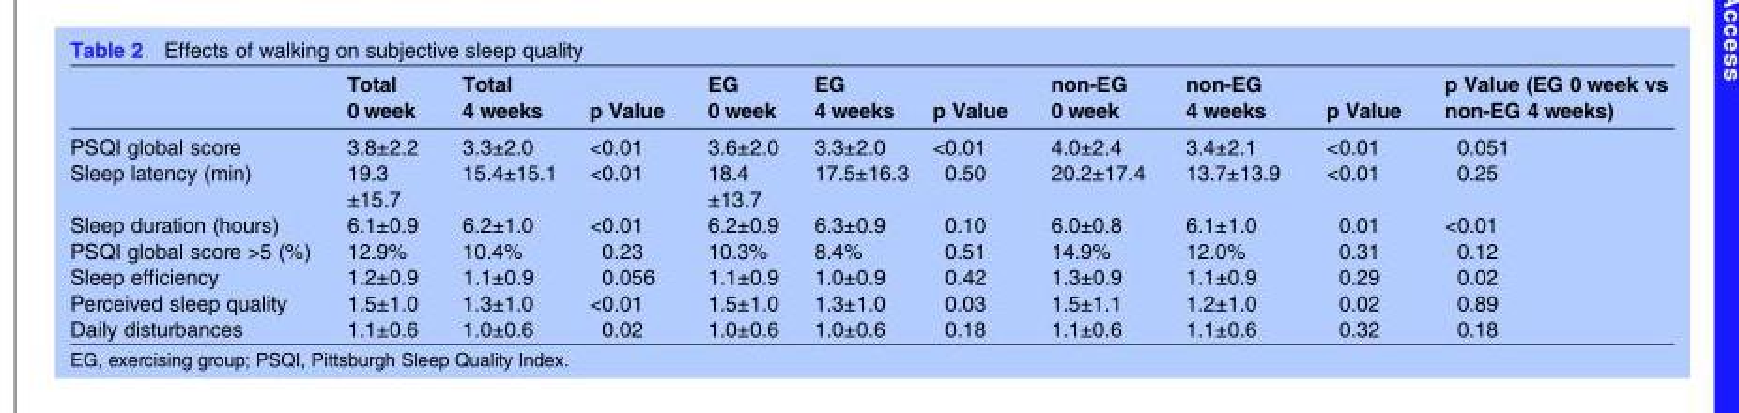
<table><thead><tr><td></td><td>Total 0 week</td><td>Total 4 weeks</td><td>p Value</td><td>EG 0 week</td><td>EG 4 weeks</td><td>p Value</td><td>non-EG 0 week</td><td>non-EG 4 weeks</td><td>p Value</td><td>p Value (EG 0 week vs non-EG 4 weeks)</td></tr></thead><tbody><tr><td>PSQI global score</td><td>3.8±2.2</td><td>3.3±2.0</td><td>&lt;0.01</td><td>3.6±2.0</td><td>3.3±2.0</td><td>&lt;0.01</td><td>4.0±2.4</td><td>3.4±2.1</td><td>&lt;0.01</td><td>0.051</td></tr><tr><td>Sleep latency (min)</td><td>19.3 ±15.7</td><td>15.4±15.1</td><td>&lt;0.01</td><td>18.4 ±13.7</td><td>17.5±16.3</td><td>0.50</td><td>20.2±17.4</td><td>13.7±13.9</td><td>&lt;0.01</td><td>0.25</td></tr><tr><td>Sleep duration (hours)</td><td>6.1±0.9</td><td>6.2±1.0</td><td>&lt;0.01</td><td>6.2±0.9</td><td>6.3±0.9</td><td>0.10</td><td>6.0±0.8</td><td>6.1±1.0</td><td>0.01</td><td>&lt;0.01</td></tr><tr><td>PSQI global score &gt;5 (%)</td><td>12.9%</td><td>10.4%</td><td>0.23</td><td>10.3%</td><td>8.4%</td><td>0.51</td><td>14.9%</td><td>12.0%</td><td>0.31</td><td>0.12</td></tr><tr><td>Sleep efficiency</td><td>1.2±0.9</td><td>1.1±0.9</td><td>0.056</td><td>1.1±0.9</td><td>1.0±0.9</td><td>0.42</td><td>1.3±0.9</td><td>1.1±0.9</td><td>0.29</td><td>0.02</td></tr><tr><td>Perceived sleep quality</td><td>1.5±1.0</td><td>1.3±1.0</td><td>&lt;0.01</td><td>1.5±1.0</td><td>1.3±1.0</td><td>0.03</td><td>1.5±1.1</td><td>1.2±1.0</td><td>0.02</td><td>0.89</td></tr><tr><td>Daily disturbances</td><td>1.1±0.6</td><td>1.0±0.6</td><td>0.02</td><td>1.0±0.6</td><td>1.0±0.6</td><td>0.18</td><td>1.1±0.6</td><td>1.1±0.6</td><td>0.32</td><td>0.18</td></tr></tbody></table>